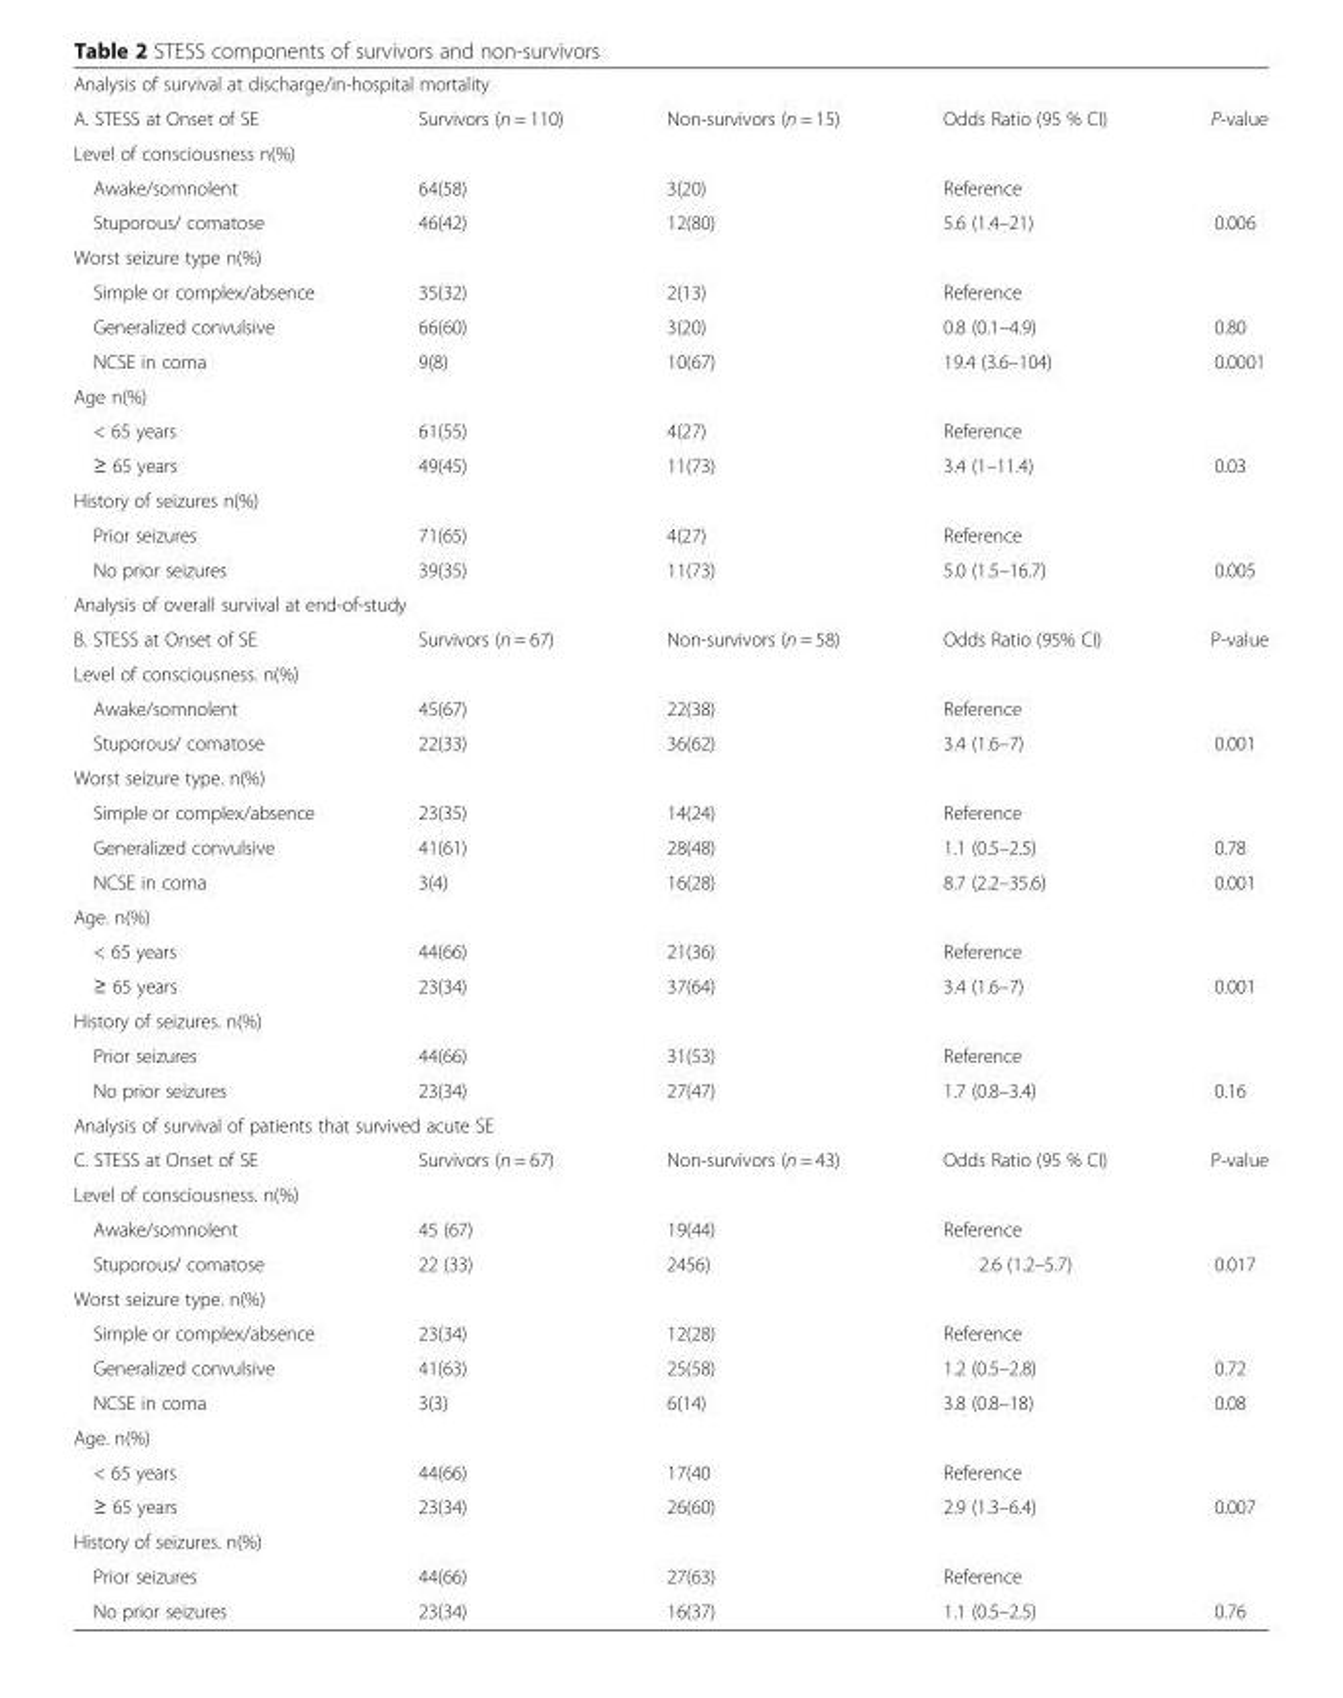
<table><tbody><tr><td colspan="5">Analysis of survival at discharge/in-hospital mortality</td></tr><tr><td>A. STESS at Onset of SE</td><td>Survivors (n = 110)</td><td>Non-survivors (n = 15)</td><td>Odds Ratio (95 % CI)</td><td>P-value</td></tr><tr><td colspan="5">Level of consciousness n(%)</td></tr><tr><td>Awake/somnolent</td><td>64(58)</td><td>3(20)</td><td>Reference</td><td></td></tr><tr><td>Stuporous/ comatose</td><td>46(42)</td><td>12(80)</td><td>5.6 (1.4–21)</td><td>0.006</td></tr><tr><td colspan="5">Worst seizure type n(%)</td></tr><tr><td>Simple or complex/absence</td><td>35(32)</td><td>2(13)</td><td>Reference</td><td></td></tr><tr><td>Generalized convulsive</td><td>66(60)</td><td>3(20)</td><td>0.8 (0.1–4.9)</td><td>0.80</td></tr><tr><td>NCSE in coma</td><td>9(8)</td><td>10(67)</td><td>19.4 (3.6–104)</td><td>0.0001</td></tr><tr><td colspan="5">Age n(%)</td></tr><tr><td>&lt; 65 years</td><td>61(55)</td><td>4(27)</td><td>Reference</td><td></td></tr><tr><td>≥ 65 years</td><td>49(45)</td><td>11(73)</td><td>3.4 (1–11.4)</td><td>0.03</td></tr><tr><td colspan="5">History of seizures n(%)</td></tr><tr><td>Prior seizures</td><td>71(65)</td><td>4(27)</td><td>Reference</td><td></td></tr><tr><td>No prior seizures</td><td>39(35)</td><td>11(73)</td><td>5.0 (1.5–16.7)</td><td>0.005</td></tr><tr><td colspan="5">Analysis of overall survival at end-of-study</td></tr><tr><td>B. STESS at Onset of SE</td><td>Survivors (n = 67)</td><td>Non-survivors (n = 58)</td><td>Odds Ratio (95% CI)</td><td>P-value</td></tr><tr><td colspan="5">Level of consciousness. n(%)</td></tr><tr><td>Awake/somnolent</td><td>45(67)</td><td>22(38)</td><td>Reference</td><td></td></tr><tr><td>Stuporous/ comatose</td><td>22(33)</td><td>36(62)</td><td>3.4 (1.6–7)</td><td>0.001</td></tr><tr><td colspan="5">Worst seizure type. n(%)</td></tr><tr><td>Simple or complex/absence</td><td>23(35)</td><td>14(24)</td><td>Reference</td><td></td></tr><tr><td>Generalized convulsive</td><td>41(61)</td><td>28(48)</td><td>1.1 (0.5–2.5)</td><td>0.78</td></tr><tr><td>NCSE in coma</td><td>3(4)</td><td>16(28)</td><td>8.7 (2.2–35.6)</td><td>0.001</td></tr><tr><td colspan="5">Age. n(%)</td></tr><tr><td>&lt; 65 years</td><td>44(66)</td><td>21(36)</td><td>Reference</td><td></td></tr><tr><td>≥ 65 years</td><td>23(34)</td><td>37(64)</td><td>3.4 (1.6–7)</td><td>0.001</td></tr><tr><td colspan="5">History of seizures. n(%)</td></tr><tr><td>Prior seizures</td><td>44(66)</td><td>31(53)</td><td>Reference</td><td></td></tr><tr><td>No prior seizures</td><td>23(34)</td><td>27(47)</td><td>1.7 (0.8–3.4)</td><td>0.16</td></tr><tr><td colspan="5">Analysis of survival of patients that survived acute SE</td></tr><tr><td>C. STESS at Onset of SE</td><td>Survivors (n = 67)</td><td>Non-survivors (n = 43)</td><td>Odds Ratio (95 % CI)</td><td>P-value</td></tr><tr><td colspan="5">Level of consciousness. n(%)</td></tr><tr><td>Awake/somnolent</td><td>45 (67)</td><td>19(44)</td><td>Reference</td><td></td></tr><tr><td>Stuporous/ comatose</td><td>22 (33)</td><td>2456)</td><td>2.6 (1.2–5.7)</td><td>0.017</td></tr><tr><td colspan="5">Worst seizure type. n(%)</td></tr><tr><td>Simple or complex/absence</td><td>23(34)</td><td>12(28)</td><td>Reference</td><td></td></tr><tr><td>Generalized convulsive</td><td>41(63)</td><td>25(58)</td><td>1.2 (0.5–2.8)</td><td>0.72</td></tr><tr><td>NCSE in coma</td><td>3(3)</td><td>6(14)</td><td>3.8 (0.8–18)</td><td>0.08</td></tr><tr><td colspan="5">Age. n(%)</td></tr><tr><td>&lt; 65 years</td><td>44(66)</td><td>17(40</td><td>Reference</td><td></td></tr><tr><td>≥ 65 years</td><td>23(34)</td><td>26(60)</td><td>2.9 (1.3–6.4)</td><td>0.007</td></tr><tr><td colspan="5">History of seizures. n(%)</td></tr><tr><td>Prior seizures</td><td>44(66)</td><td>27(63)</td><td>Reference</td><td></td></tr><tr><td>No prior seizures</td><td>23(34)</td><td>16(37)</td><td>1.1 (0.5–2.5)</td><td>0.76</td></tr></tbody></table>